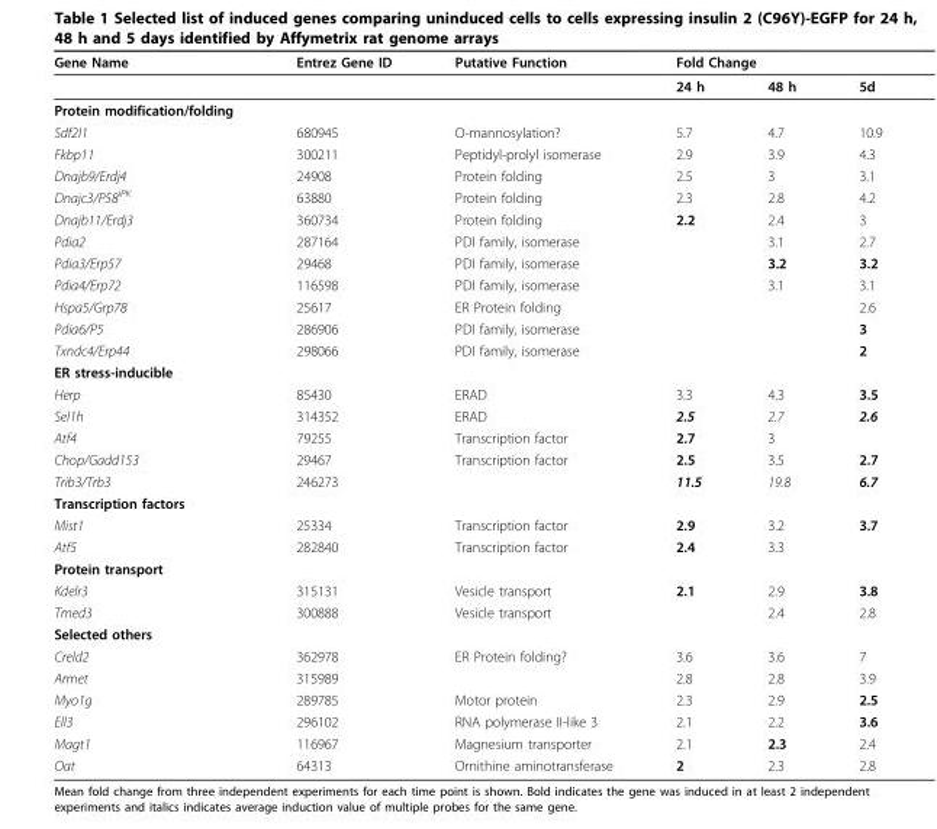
<table><thead><tr><td rowspan="2">Gene Name</td><td rowspan="2">Entrez Gene ID</td><td rowspan="2">Putative Function</td><td colspan="3">Fold Change</td></tr><tr><td>24 h</td><td>48 h</td><td>5d</td></tr></thead><tbody><tr><td colspan="6">Protein modification/folding</td></tr><tr><td>Sdf2l1</td><td>680945</td><td>O-mannosylation?</td><td>5.7</td><td>4.7</td><td>10.9</td></tr><tr><td>Fkbp11</td><td>300211</td><td>Peptidyl-prolyl isomerase</td><td>2.9</td><td>3.9</td><td>4.3</td></tr><tr><td>Dnajb9/Erdj4</td><td>24908</td><td>Protein folding</td><td>2.5</td><td>3</td><td>3.1</td></tr><tr><td>Dnajc3/P58<sup>IPK</sup></td><td>63880</td><td>Protein folding</td><td>2.3</td><td>2.8</td><td>4.2</td></tr><tr><td>Dnajb11/Erdj3</td><td>360734</td><td>Protein folding</td><td>2.2</td><td>2.4</td><td>3</td></tr><tr><td>Pdia2</td><td>287164</td><td>PDI family, isomerase</td><td></td><td>3.1</td><td>2.7</td></tr><tr><td>Pdia3/Erp57</td><td>29468</td><td>PDI family, isomerase</td><td></td><td>3.2</td><td>3.2</td></tr><tr><td>Pdia4/Erp72</td><td>116598</td><td>PDI family, isomerase</td><td></td><td>3.1</td><td>3.1</td></tr><tr><td>Hspa5/Grp78</td><td>25617</td><td>ER Protein folding</td><td></td><td></td><td>2.6</td></tr><tr><td>Pdia6/P5</td><td>286906</td><td>PDI family, isomerase</td><td></td><td></td><td>3</td></tr><tr><td>Txndc4/Erp44</td><td>298066</td><td>PDI family, isomerase</td><td></td><td></td><td>2</td></tr><tr><td colspan="6">ER stress-inducible</td></tr><tr><td>Herp</td><td>85430</td><td>ERAD</td><td>3.3</td><td>4.3</td><td>3.5</td></tr><tr><td>Sel1h</td><td>314352</td><td>ERAD</td><td>2.5</td><td>2.7</td><td>2.6</td></tr><tr><td>Atf4</td><td>79255</td><td>Transcription factor</td><td>2.7</td><td>3</td><td></td></tr><tr><td>Chop/Gadd153</td><td>29467</td><td>Transcription factor</td><td>2.5</td><td>3.5</td><td>2.7</td></tr><tr><td>Trib3/Trb3</td><td>246273</td><td></td><td>11.5</td><td>19.8</td><td>6.7</td></tr><tr><td colspan="6">Transcription factors</td></tr><tr><td>Mist1</td><td>25334</td><td>Transcription factor</td><td>2.9</td><td>3.2</td><td>3.7</td></tr><tr><td>Atf5</td><td>282840</td><td>Transcription factor</td><td>2.4</td><td>3.3</td><td></td></tr><tr><td colspan="6">Protein transport</td></tr><tr><td>Kdelr3</td><td>315131</td><td>Vesicle transport</td><td>2.1</td><td>2.9</td><td>3.8</td></tr><tr><td>Tmed3</td><td>300888</td><td>Vesicle transport</td><td></td><td>2.4</td><td>2.8</td></tr><tr><td colspan="6">Selected others</td></tr><tr><td>Creld2</td><td>362978</td><td>ER Protein folding?</td><td>3.6</td><td>3.6</td><td>7</td></tr><tr><td>Armet</td><td>315989</td><td></td><td>2.8</td><td>2.8</td><td>3.9</td></tr><tr><td>Myo1g</td><td>289785</td><td>Motor protein</td><td>2.3</td><td>2.9</td><td>2.5</td></tr><tr><td>Ell3</td><td>296102</td><td>RNA polymerase II-like 3</td><td>2.1</td><td>2.2</td><td>3.6</td></tr><tr><td>Magt1</td><td>116967</td><td>Magnesium transporter</td><td>2.1</td><td>2.3</td><td>2.4</td></tr><tr><td>Oat</td><td>64313</td><td>Ornithine aminotransferase</td><td>2</td><td>2.3</td><td>2.8</td></tr></tbody></table>